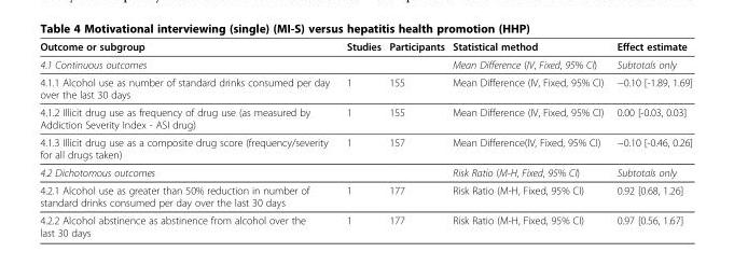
<table><thead><tr><td>Outcome or subgroup</td><td>Studies</td><td>Participants</td><td>Statistical method</td><td>Effect estimate</td></tr></thead><tbody><tr><td>4.1 Continuous outcomes</td><td></td><td></td><td>Mean Difference (IV, Fixed, 95% CI)</td><td>Subtotals only</td></tr><tr><td>4.1.1 Alcohol use as number of standard drinks consumed per day over the last 30 days</td><td>1</td><td>155</td><td>Mean Difference (IV, Fixed, 95% CI)</td><td>−0.10 [-1.89, 1.69]</td></tr><tr><td>4.1.2 Illicit drug use as frequency of drug use (as measured by Addiction Severity Index - ASI drug)</td><td>1</td><td>155</td><td>Mean Difference (IV, Fixed, 95% CI)</td><td>0.00 [-0.03, 0.03]</td></tr><tr><td>4.1.3 Illicit drug use as a composite drug score (frequency/severity for all drugs taken)</td><td>1</td><td>157</td><td>Mean Difference(IV, Fixed, 95% CI)</td><td>−0.10 [-0.46, 0.26]</td></tr><tr><td>4.2 Dichotomous outcomes</td><td></td><td></td><td>Risk Ratio (M-H, Fixed, 95% CI)</td><td>Subtotals only</td></tr><tr><td>4.2.1 Alcohol use as greater than 50% reduction in number of standard drinks consumed per day over the last 30 days</td><td>1</td><td>177</td><td>Risk Ratio (M-H, Fixed, 95% CI)</td><td>0.92 [0.68, 1.26]</td></tr><tr><td>4.2.2 Alcohol abstinence as abstinence from alcohol over the last 30 days</td><td>1</td><td>177</td><td>Risk Ratio (M-H, Fixed, 95% CI)</td><td>0.97 [0.56, 1.67]</td></tr></tbody></table>